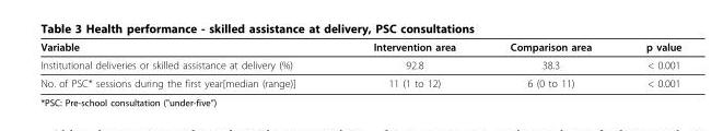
<table><thead><tr><td>Variable</td><td>Intervention area</td><td>Comparison area</td><td>p value</td></tr></thead><tbody><tr><td>Institutional deliveries or skilled assistance at delivery (%)</td><td>92.8</td><td>38.3</td><td>&lt; 0.001</td></tr><tr><td>No. of PSC* sessions during the first year[median (range)]</td><td>11 (1 to 12)</td><td>6 (0 to 11)</td><td>&lt; 0.001</td></tr></tbody></table>